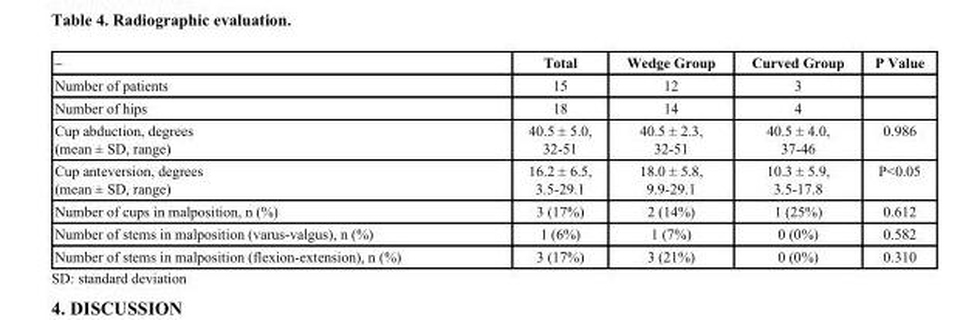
<table><thead><tr><td>–</td><td>Total</td><td>Wedge Group</td><td>Curved Group</td><td>P Value</td></tr></thead><tbody><tr><td>Number of patients</td><td>15</td><td>12</td><td>3</td><td></td></tr><tr><td>Number of hips</td><td>18</td><td>14</td><td>4</td><td></td></tr><tr><td>Cup abduction, degrees (mean ± SD, range)</td><td>40.5 ± 5.0, 32-51</td><td>40.5 ± 2.3, 32-51</td><td>40.5 ± 4.0, 37-46</td><td>0.986</td></tr><tr><td>Cup anteversion, degrees (mean ± SD, range)</td><td>16.2 ± 6.5, 3.5-29.1</td><td>18.0 ± 5.8, 9.9-29.1</td><td>10.3 ± 5.9, 3.5-17.8</td><td>P&lt;0.05</td></tr><tr><td>Number of cups in malposition, n (%)</td><td>3 (17%)</td><td>2 (14%)</td><td>1 (25%)</td><td>0.612</td></tr><tr><td>Number of stems in malposition (varus-valgus), n (%)</td><td>1 (6%)</td><td>1 (7%)</td><td>0 (0%)</td><td>0.582</td></tr><tr><td>Number of stems in malposition (flexion-extension), n (%)</td><td>3 (17%)</td><td>3 (21%)</td><td>0 (0%)</td><td>0.310</td></tr></tbody></table>